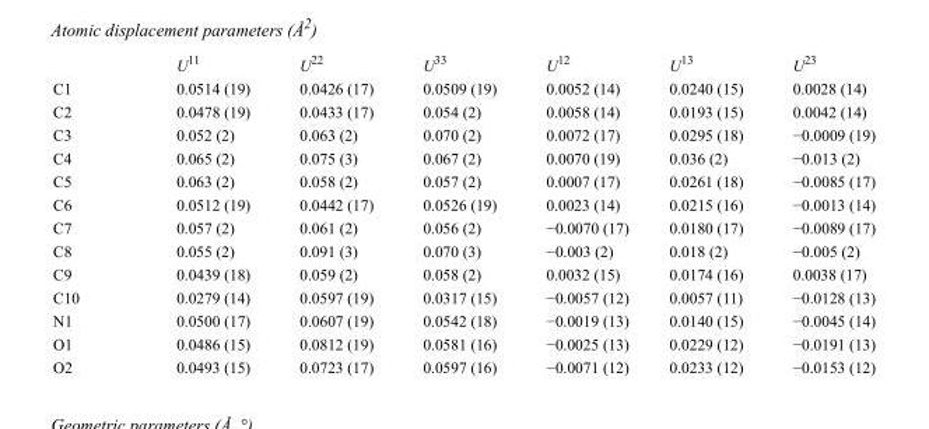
<table><thead><tr><td></td><td>U<sup>11</sup></td><td>U<sup>22</sup></td><td>U<sup>33</sup></td><td>U<sup>12</sup></td><td>U<sup>13</sup></td><td>U<sup>23</sup></td></tr></thead><tbody><tr><td>C1</td><td>0.0514 (19)</td><td>0.0426 (17)</td><td>0.0509 (19)</td><td>0.0052 (14)</td><td>0.0240 (15)</td><td>0.0028 (14)</td></tr><tr><td>C2</td><td>0.0478 (19)</td><td>0.0433 (17)</td><td>0.054 (2)</td><td>0.0058 (14)</td><td>0.0193 (15)</td><td>0.0042 (14)</td></tr><tr><td>C3</td><td>0.052 (2)</td><td>0.063 (2)</td><td>0.070 (2)</td><td>0.0072 (17)</td><td>0.0295 (18)</td><td>−0.0009 (19)</td></tr><tr><td>C4</td><td>0.065 (2)</td><td>0.075 (3)</td><td>0.067 (2)</td><td>0.0070 (19)</td><td>0.036 (2)</td><td>−0.013 (2)</td></tr><tr><td>C5</td><td>0.063 (2)</td><td>0.058 (2)</td><td>0.057 (2)</td><td>0.0007 (17)</td><td>0.0261 (18)</td><td>−0.0085 (17)</td></tr><tr><td>C6</td><td>0.0512 (19)</td><td>0.0442 (17)</td><td>0.0526 (19)</td><td>0.0023 (14)</td><td>0.0215 (16)</td><td>−0.0013 (14)</td></tr><tr><td>C7</td><td>0.057 (2)</td><td>0.061 (2)</td><td>0.056 (2)</td><td>−0.0070 (17)</td><td>0.0180 (17)</td><td>−0.0089 (17)</td></tr><tr><td>C8</td><td>0.055 (2)</td><td>0.091 (3)</td><td>0.070 (3)</td><td>−0.003 (2)</td><td>0.018 (2)</td><td>−0.005 (2)</td></tr><tr><td>C9</td><td>0.0439 (18)</td><td>0.059 (2)</td><td>0.058 (2)</td><td>0.0032 (15)</td><td>0.0174 (16)</td><td>0.0038 (17)</td></tr><tr><td>C10</td><td>0.0279 (14)</td><td>0.0597 (19)</td><td>0.0317 (15)</td><td>−0.0057 (12)</td><td>0.0057 (11)</td><td>−0.0128 (13)</td></tr><tr><td>N1</td><td>0.0500 (17)</td><td>0.0607 (19)</td><td>0.0542 (18)</td><td>−0.0019 (13)</td><td>0.0140 (15)</td><td>−0.0045 (14)</td></tr><tr><td>O1</td><td>0.0486 (15)</td><td>0.0812 (19)</td><td>0.0581 (16)</td><td>−0.0025 (13)</td><td>0.0229 (12)</td><td>−0.0191 (13)</td></tr><tr><td>O2</td><td>0.0493 (15)</td><td>0.0723 (17)</td><td>0.0597 (16)</td><td>−0.0071 (12)</td><td>0.0233 (12)</td><td>−0.0153 (12)</td></tr></tbody></table>